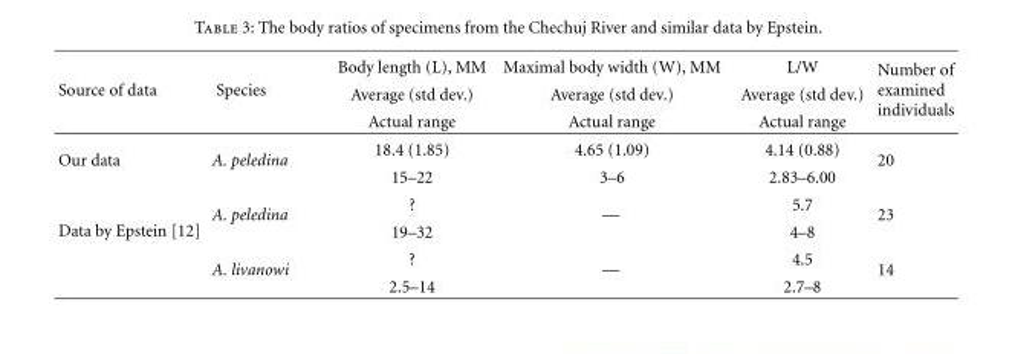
<table><thead><tr><td rowspan="3">Source of data</td><td rowspan="3">Species</td><td rowspan="3">Body length (L), MM Average (std dev.) Actual range</td><td rowspan="3">Maximal body width (W), MM Average (std dev.) Actual range</td><td rowspan="3">L/W Average (std dev.) Actual range</td><td rowspan="3">Number of examined individuals</td></tr><tr></tr><tr></tr></thead><tbody><tr><td rowspan="2">Our data</td><td rowspan="2">A. peledina</td><td>18.4 (1.85)</td><td>4.65 (1.09)</td><td>4.14 (0.88)</td><td rowspan="2">20</td></tr><tr><td>15–22</td><td>3–6</td><td>2.83–6.00</td></tr><tr><td rowspan="4">Data by Epstein [12]</td><td rowspan="2">A. peledina</td><td>?</td><td rowspan="2">—</td><td>5.7</td><td rowspan="2">23</td></tr><tr><td>19–32</td><td>4–8</td></tr><tr><td rowspan="2">A. livanowi</td><td>?</td><td rowspan="2">—</td><td>4.5</td><td rowspan="2">14</td></tr><tr><td>2.5–14</td><td>2.7–8</td></tr></tbody></table>